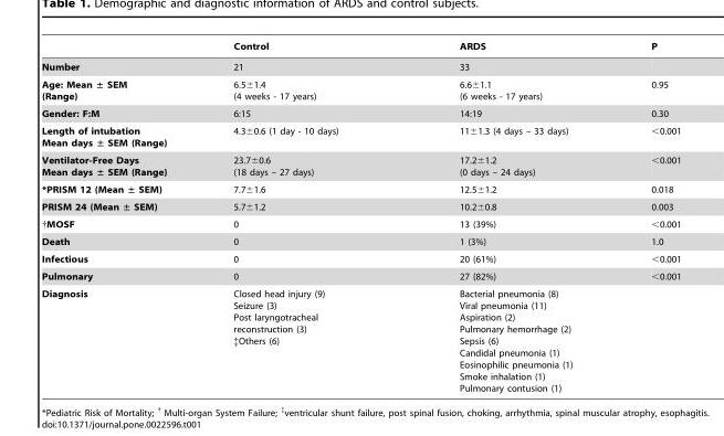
<table><thead><tr><td></td><td>Control</td><td>ARDS</td><td>P</td></tr></thead><tbody><tr><td>Number</td><td>21</td><td>33</td><td></td></tr><tr><td>Age: Mean ± SEM (Range)</td><td>6.5±1.4 (4 weeks - 17 years)</td><td>6.6±1.1 (6 weeks - 17 years)</td><td>0.95</td></tr><tr><td>Gender: F:M</td><td>6:15</td><td>14:19</td><td>0.30</td></tr><tr><td>Length of intubation Mean days ± SEM (Range)</td><td>4.3±0.6 (1 day - 10 days)</td><td>11±1.3 (4 days – 33 days)</td><td>&lt;0.001</td></tr><tr><td>Ventilator-Free Days Mean days ± SEM (Range)</td><td>23.7±0.6 (18 days – 27 days)</td><td>17.2±1.2 (0 days – 24 days)</td><td>&lt;0.001</td></tr><tr><td>*PRISM 12 (Mean ± SEM)</td><td>7.7±1.6</td><td>12.5±1.2</td><td>0.018</td></tr><tr><td>PRISM 24 (Mean ± SEM)</td><td>5.7±1.2</td><td>10.2±0.8</td><td>0.003</td></tr><tr><td>†MOSF</td><td>0</td><td>13 (39%)</td><td>&lt;0.001</td></tr><tr><td>Death</td><td>0</td><td>1 (3%)</td><td>1.0</td></tr><tr><td>Infectious</td><td>0</td><td>20 (61%)</td><td>&lt;0.001</td></tr><tr><td>Pulmonary</td><td>0</td><td>27 (82%)</td><td>&lt;0.001</td></tr><tr><td>Diagnosis</td><td>Closed head injury (9) Seizure (3) Post laryngotracheal reconstruction (3) ‡Others (6)</td><td>Bacterial pneumonia (8) Viral pneumonia (11) Aspiration (2) Pulmonary hemorrhage (2) Sepsis (6) Candidal pneumonia (1) Eosinophilic pneumonia (1) Smoke inhalation (1) Pulmonary contusion (1)</td><td></td></tr></tbody></table>